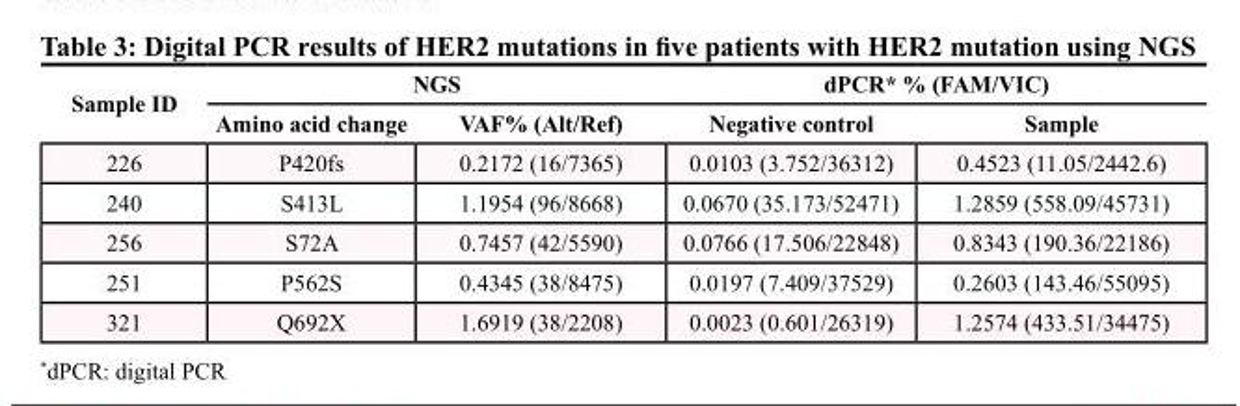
<table><thead><tr><td rowspan="2">Sample ID</td><td colspan="2">NGS</td><td colspan="2">dPCR* % (FAM/VIC)</td></tr><tr><td>Amino acid change</td><td>VAF% (Alt/Ref)</td><td>Negative control</td><td>Sample</td></tr></thead><tbody><tr><td>226</td><td>P420fs</td><td>0.2172 (16/7365)</td><td>0.0103 (3.752/36312)</td><td>0.4523 (11.05/2442.6)</td></tr><tr><td>240</td><td>S413L</td><td>1.1954 (96/8668)</td><td>0.0670 (35.173/52471)</td><td>1.2859 (558.09/45731)</td></tr><tr><td>256</td><td>S72A</td><td>0.7457 (42/5590)</td><td>0.0766 (17.506/22848)</td><td>0.8343 (190.36/22186)</td></tr><tr><td>251</td><td>P562S</td><td>0.4345 (38/8475)</td><td>0.0197 (7.409/37529)</td><td>0.2603 (143.46/55095)</td></tr><tr><td>321</td><td>Q692X</td><td>1.6919 (38/2208)</td><td>0.0023 (0.601/26319)</td><td>1.2574 (433.51/34475)</td></tr></tbody></table>